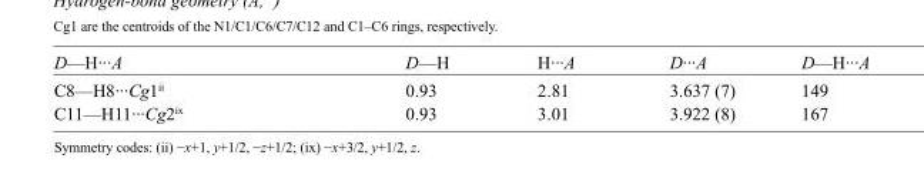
<table><tbody><tr><td>D—H···A</td><td>D—H</td><td>H···A</td><td>D···A</td><td>D—H···A</td></tr><tr><td>C8—H8···Cg1<sup>ii</sup></td><td>0.93</td><td>2.81</td><td>3.637 (7)</td><td>149</td></tr><tr><td>C11—H11···Cg2<sup>ix</sup></td><td>0.93</td><td>3.01</td><td>3.922 (8)</td><td>167</td></tr></tbody></table>